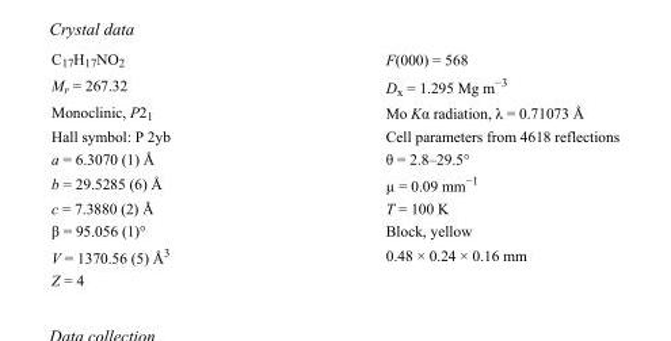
<table><tbody><tr><td>C<sub>17</sub>H<sub>17</sub>NO<sub>2</sub></td><td>F(000) = 568</td></tr><tr><td>M<sub>r</sub> = 267.32</td><td>D<sub>x</sub> = 1.295 Mg m<sup>−3</sup></td></tr><tr><td>Monoclinic, P2<sub>1</sub></td><td>Mo Kα radiation, λ = 0.71073 Å</td></tr><tr><td>Hall symbol: P 2yb</td><td>Cell parameters from 4618 reflections</td></tr><tr><td>a = 6.3070 (1) Å</td><td>θ = 2.8–29.5°</td></tr><tr><td>b = 29.5285 (6) Å</td><td>µ = 0.09 mm<sup>−1</sup></td></tr><tr><td>c = 7.3880 (2) Å</td><td>T = 100 K</td></tr><tr><td>β = 95.056 (1)°</td><td>Block, yellow</td></tr><tr><td>V = 1370.56 (5) Å<sup>3</sup></td><td>0.48 × 0.24 × 0.16 mm</td></tr><tr><td>Z = 4</td><td></td></tr></tbody></table>